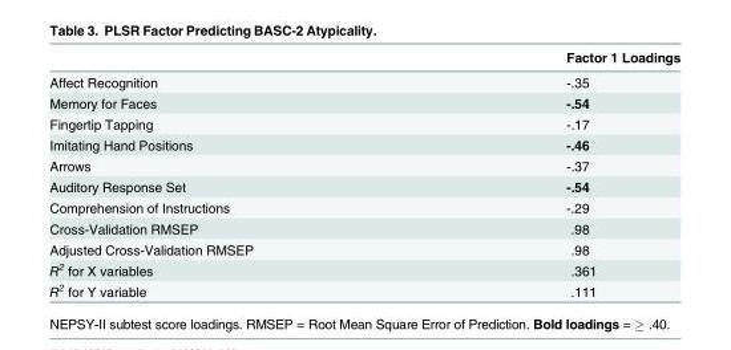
<table><thead><tr><td></td><td>Factor 1 Loadings</td></tr></thead><tbody><tr><td>Affect Recognition</td><td>-.35</td></tr><tr><td>Memory for Faces</td><td>-.54</td></tr><tr><td>Fingertip Tapping</td><td>-.17</td></tr><tr><td>Imitating Hand Positions</td><td>-.46</td></tr><tr><td>Arrows</td><td>-.37</td></tr><tr><td>Auditory Response Set</td><td>-.54</td></tr><tr><td>Comprehension of Instructions</td><td>-.29</td></tr><tr><td>Cross-Validation RMSEP</td><td>.98</td></tr><tr><td>Adjusted Cross-Validation RMSEP</td><td>.98</td></tr><tr><td>R<sup>2</sup> for X variables</td><td>.361</td></tr><tr><td>R<sup>2</sup> for Y variable</td><td>.111</td></tr></tbody></table>